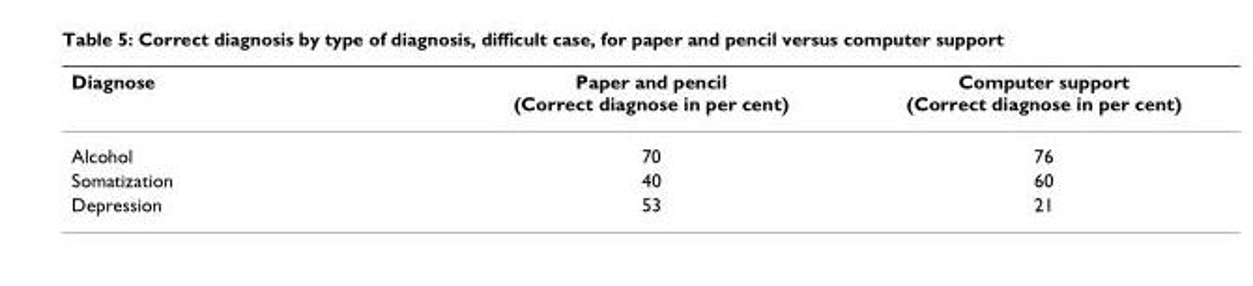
<table><thead><tr><td>Diagnose</td><td>Paper and pencil (Correct diagnose in per cent)</td><td>Computer support (Correct diagnose in per cent)</td></tr></thead><tbody><tr><td>Alcohol</td><td>70</td><td>76</td></tr><tr><td>Somatization</td><td>40</td><td>60</td></tr><tr><td>Depression</td><td>53</td><td>21</td></tr></tbody></table>